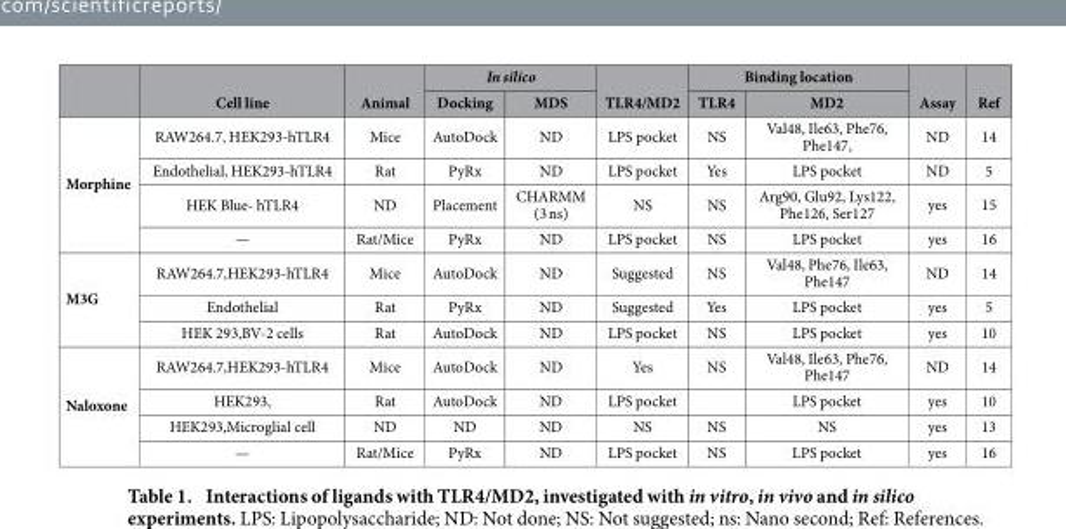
<table><thead><tr><td rowspan="2"></td><td rowspan="2">Cell line</td><td rowspan="2">Animal</td><td colspan="2">In silico</td><td rowspan="2">TLR4/MD2</td><td colspan="2">Binding location</td><td rowspan="2">Assay</td><td rowspan="2">Ref</td></tr><tr><td>Docking</td><td>MDS</td><td>TLR4</td><td>MD2</td></tr></thead><tbody><tr><td rowspan="4">Morphine</td><td>RAW264.7, HEK293-hTLR4</td><td>Mice</td><td>AutoDock</td><td>ND</td><td>LPS pocket</td><td>NS</td><td>Val48, Ile63, Phe76, Phe147,</td><td>ND</td><td>14</td></tr><tr><td>Endothelial, HEK293-hTLR4</td><td>Rat</td><td>PyRx</td><td>ND</td><td>LPS pocket</td><td>Yes</td><td>LPS pocket</td><td>ND</td><td>5</td></tr><tr><td>HEK Blue- hTLR4</td><td>ND</td><td>Placement</td><td>CHARMM (3 ns)</td><td>NS</td><td>NS</td><td>Arg90, Glu92, Lys122, Phe126, Ser127</td><td>yes</td><td>15</td></tr><tr><td>—</td><td>Rat/Mice</td><td>PyRx</td><td>ND</td><td>LPS pocket</td><td>NS</td><td>LPS pocket</td><td>yes</td><td>16</td></tr><tr><td rowspan="3">M3G</td><td>RAW264.7,HEK293-hTLR4</td><td>Mice</td><td>AutoDock</td><td>ND</td><td>Suggested</td><td>NS</td><td>Val48, Phe76, Ile63, Phe147</td><td>ND</td><td>14</td></tr><tr><td>Endothelial</td><td>Rat</td><td>PyRx</td><td>ND</td><td>Suggested</td><td>Yes</td><td>LPS pocket</td><td>yes</td><td>5</td></tr><tr><td>HEK 293,BV-2 cells</td><td>Rat</td><td>AutoDock</td><td>ND</td><td>LPS pocket</td><td>NS</td><td>LPS pocket</td><td>yes</td><td>10</td></tr><tr><td rowspan="4">Naloxone</td><td>RAW264.7,HEK293-hTLR4</td><td>Mice</td><td>AutoDock</td><td>ND</td><td>Yes</td><td>NS</td><td>Val48, Ile63, Phe76, Phe147</td><td>ND</td><td>14</td></tr><tr><td>HEK293,</td><td>Rat</td><td>AutoDock</td><td>ND</td><td>LPS pocket</td><td></td><td>LPS pocket</td><td>yes</td><td>10</td></tr><tr><td>HEK293,Microglial cell</td><td>ND</td><td>ND</td><td>ND</td><td>NS</td><td>NS</td><td>NS</td><td>yes</td><td>13</td></tr><tr><td>—</td><td>Rat/Mice</td><td>PyRx</td><td>ND</td><td>LPS pocket</td><td>NS</td><td>LPS pocket</td><td>yes</td><td>16</td></tr></tbody></table>